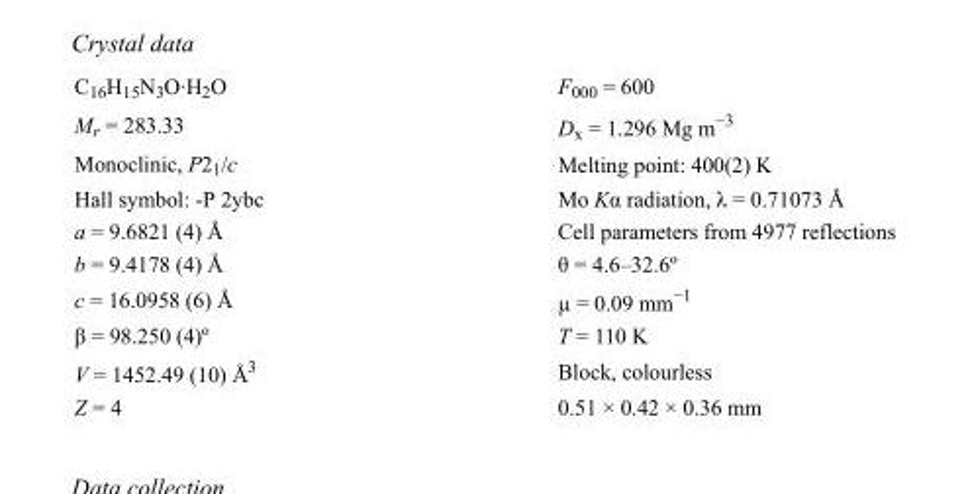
<table><tbody><tr><td>C<sub>16</sub>H<sub>15</sub>N<sub>3</sub>O·H<sub>2</sub>O</td><td>F000 = 600</td></tr><tr><td>M<sub>r</sub> = 283.33</td><td>D<sub>x</sub> = 1.296 Mg m<sup>−3</sup></td></tr><tr><td>Monoclinic, P2<sub>1</sub>/c</td><td>Melting point: 400(2) K</td></tr><tr><td>Hall symbol: -P 2ybc</td><td>Mo Kα radiation, λ = 0.71073 Å</td></tr><tr><td>a = 9.6821 (4) Å</td><td>Cell parameters from 4977 reflections</td></tr><tr><td>b = 9.4178 (4) Å</td><td>θ = 4.6–32.6º</td></tr><tr><td>c = 16.0958 (6) Å</td><td>µ = 0.09 mm<sup>−1</sup></td></tr><tr><td>β = 98.250 (4)º</td><td>T = 110 K</td></tr><tr><td>V = 1452.49 (10) Å<sup>3</sup></td><td>Block, colourless</td></tr><tr><td>Z = 4</td><td>0.51 × 0.42 × 0.36 mm</td></tr></tbody></table>